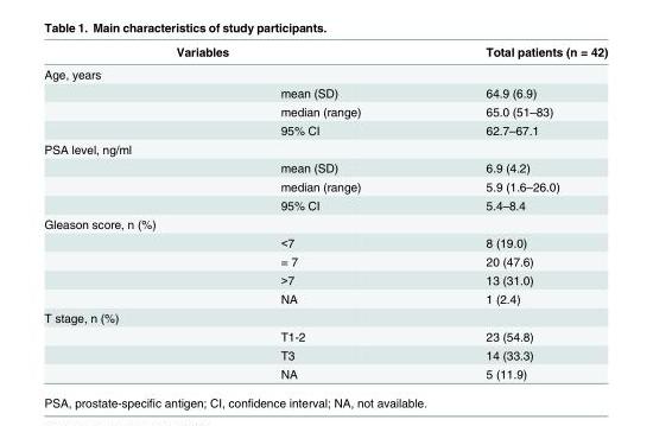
<table><thead><tr><td colspan="2">Variables</td><td rowspan="2">Total patients (n = 42)</td></tr><tr><td>Age, years</td><td></td></tr></thead><tbody><tr><td></td><td>mean (SD)</td><td>64.9 (6.9)</td></tr><tr><td></td><td>median (range)</td><td>65.0 (51–83)</td></tr><tr><td></td><td>95% CI</td><td>62.7–67.1</td></tr><tr><td colspan="3">PSA level, ng/ml</td></tr><tr><td></td><td>mean (SD)</td><td>6.9 (4.2)</td></tr><tr><td></td><td>median (range)</td><td>5.9 (1.6–26.0)</td></tr><tr><td></td><td>95% CI</td><td>5.4–8.4</td></tr><tr><td colspan="3">Gleason score, n (%)</td></tr><tr><td></td><td>&lt;7</td><td>8 (19.0)</td></tr><tr><td></td><td>= 7</td><td>20 (47.6)</td></tr><tr><td></td><td>&gt;7</td><td>13 (31.0)</td></tr><tr><td></td><td>NA</td><td>1 (2.4)</td></tr><tr><td colspan="3">T stage, n (%)</td></tr><tr><td></td><td>T1-2</td><td>23 (54.8)</td></tr><tr><td></td><td>T3</td><td>14 (33.3)</td></tr><tr><td></td><td>NA</td><td>5 (11.9)</td></tr></tbody></table>